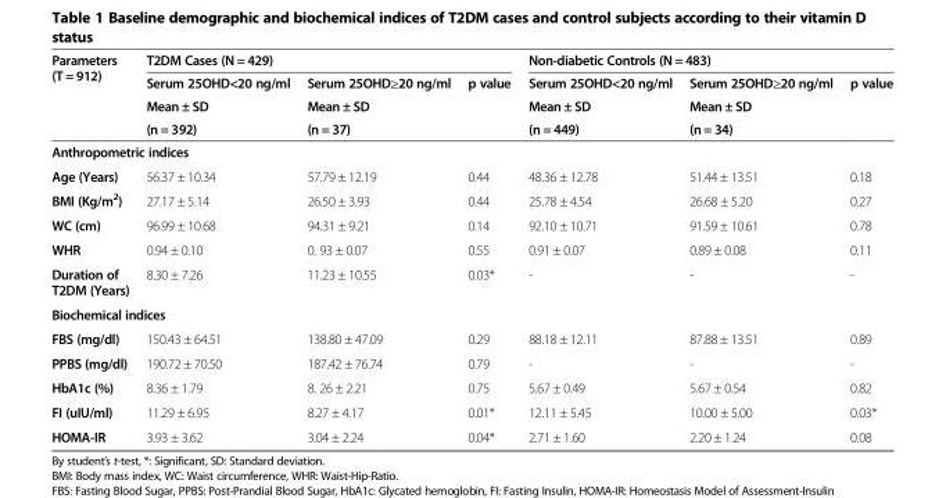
<table><thead><tr><td rowspan="4">Parameters (T = 912)</td><td colspan="3">T2DM Cases (N = 429)</td><td colspan="3">Non-diabetic Controls (N = 483)</td></tr><tr><td rowspan="3">Serum 25OHD&lt;20 ng/ml Mean ± SD (n = 392)</td><td rowspan="3">Serum 25OHD≥20 ng/ml Mean ± SD (n = 37)</td><td rowspan="3">p value</td><td rowspan="3">Serum 25OHD&lt;20 ng/ml Mean ± SD (n = 449)</td><td rowspan="3">Serum 25OHD≥20 ng/ml Mean ± SD (n = 34)</td><td rowspan="3">p value</td></tr><tr></tr><tr></tr></thead><tbody><tr><td colspan="7">Anthropometric indices</td></tr><tr><td>Age (Years)</td><td>56.37 ± 10.34</td><td>57.79 ± 12.19</td><td>0.44</td><td>48.36 ± 12.78</td><td>51.44 ± 13.51</td><td>0.18</td></tr><tr><td>BMI (Kg/m<sup>2</sup>)</td><td>27.17 ± 5.14</td><td>26.50 ± 3.93</td><td>0.44</td><td>25.78 ± 4.54</td><td>26.68 ± 5.20</td><td>0.27</td></tr><tr><td>WC (cm)</td><td>96.99 ± 10.68</td><td>94.31 ± 9.21</td><td>0.14</td><td>92.10 ± 10.71</td><td>91.59 ± 10.61</td><td>0.78</td></tr><tr><td>WHR</td><td>0.94 ± 0.10</td><td>0. 93 ± 0.07</td><td>0.55</td><td>0.91 ± 0.07</td><td>0.89 ± 0.08</td><td>0.11</td></tr><tr><td>Duration of T2DM (Years)</td><td>8.30 ± 7.26</td><td>11.23 ± 10.55</td><td>0.03*</td><td>-</td><td>-</td><td>-</td></tr><tr><td colspan="7">Biochemical indices</td></tr><tr><td>FBS (mg/dl)</td><td>150.43 ± 64.51</td><td>138.80 ± 47.09</td><td>0.29</td><td>88.18 ± 12.11</td><td>87.88 ± 13.51</td><td>0.89</td></tr><tr><td>PPBS (mg/dl)</td><td>190.72 ± 70.50</td><td>187.42 ± 76.74</td><td>0.79</td><td>-</td><td>-</td><td>-</td></tr><tr><td>HbA1c (%)</td><td>8.36 ± 1.79</td><td>8. 26 ± 2.21</td><td>0.75</td><td>5.67 ± 0.49</td><td>5.67 ± 0.54</td><td>0.82</td></tr><tr><td>FI (uIU/ml)</td><td>11.29 ± 6.95</td><td>8.27 ± 4.17</td><td>0.01*</td><td>12.11 ± 5.45</td><td>10.00 ± 5.00</td><td>0.03*</td></tr><tr><td>HOMA-IR</td><td>3.93 ± 3.62</td><td>3.04 ± 2.24</td><td>0.04*</td><td>2.71 ± 1.60</td><td>2.20 ± 1.24</td><td>0.08</td></tr></tbody></table>